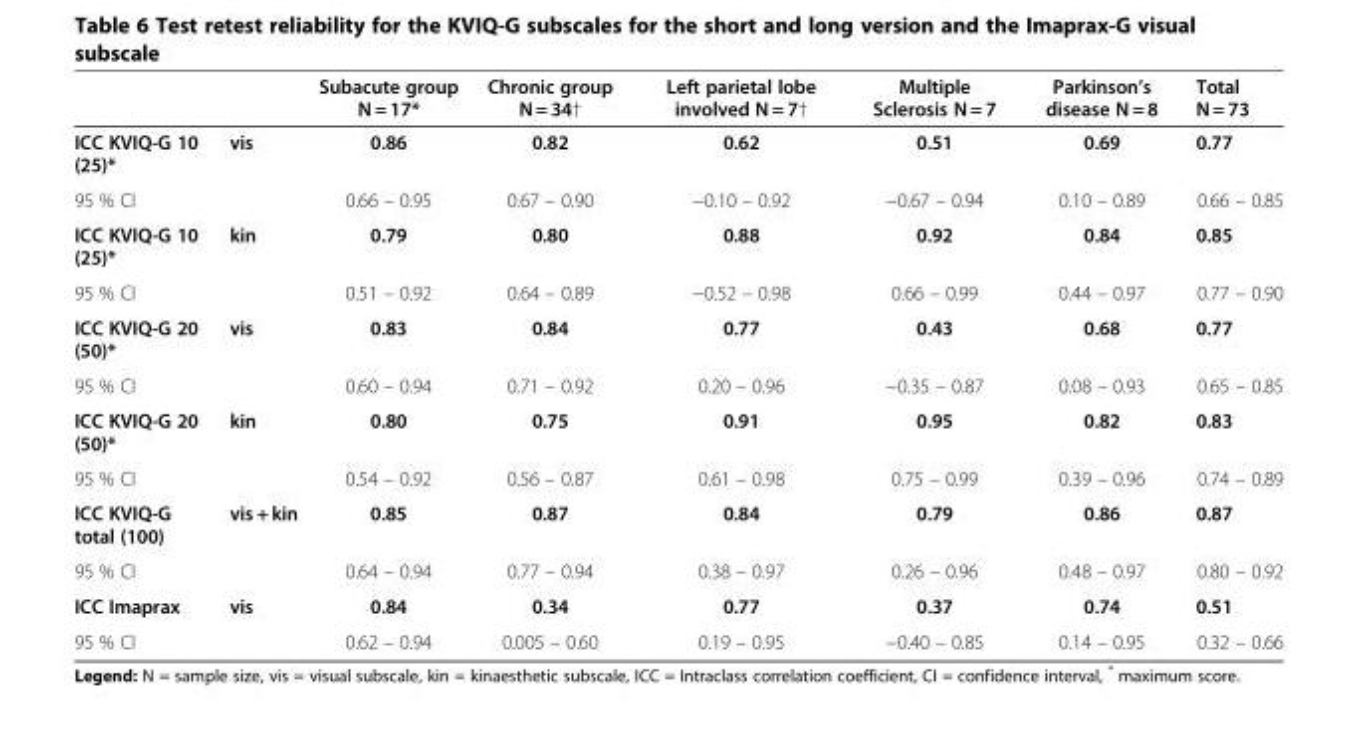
<table><thead><tr><td></td><td></td><td>Subacute group N = 17*</td><td>Chronic group N = 34†</td><td>Left parietal lobe involved N = 7†</td><td>Multiple Sclerosis N = 7</td><td>Parkinson’s disease N = 8</td><td>Total N = 73</td></tr></thead><tbody><tr><td>ICC KVIQ-G 10 (25)*</td><td rowspan="2">vis</td><td>0.86</td><td>0.82</td><td>0.62</td><td>0.51</td><td>0.69</td><td>0.77</td></tr><tr><td>95 % CI</td><td>0.66 – 0.95</td><td>0.67 – 0.90</td><td>−0.10 – 0.92</td><td>−0.67 – 0.94</td><td>0.10 – 0.89</td><td>0.66 – 0.85</td></tr><tr><td>ICC KVIQ-G 10 (25)*</td><td rowspan="2">kin</td><td>0.79</td><td>0.80</td><td>0.88</td><td>0.92</td><td>0.84</td><td>0.85</td></tr><tr><td>95 % CI</td><td>0.51 – 0.92</td><td>0.64 – 0.89</td><td>−0.52 – 0.98</td><td>0.66 – 0.99</td><td>0.44 – 0.97</td><td>0.77 – 0.90</td></tr><tr><td>ICC KVIQ-G 20 (50)*</td><td rowspan="2">vis</td><td>0.83</td><td>0.84</td><td>0.77</td><td>0.43</td><td>0.68</td><td>0.77</td></tr><tr><td>95 % CI</td><td>0.60 – 0.94</td><td>0.71 – 0.92</td><td>0.20 – 0.96</td><td>−0.35 – 0.87</td><td>0.08 – 0.93</td><td>0.65 – 0.85</td></tr><tr><td>ICC KVIQ-G 20 (50)*</td><td rowspan="2">kin</td><td>0.80</td><td>0.75</td><td>0.91</td><td>0.95</td><td>0.82</td><td>0.83</td></tr><tr><td>95 % CI</td><td>0.54 – 0.92</td><td>0.56 – 0.87</td><td>0.61 – 0.98</td><td>0.75 – 0.99</td><td>0.39 – 0.96</td><td>0.74 – 0.89</td></tr><tr><td>ICC KVIQ-G total (100)</td><td rowspan="2">vis + kin</td><td>0.85</td><td>0.87</td><td>0.84</td><td>0.79</td><td>0.86</td><td>0.87</td></tr><tr><td>95 % CI</td><td>0.64 – 0.94</td><td>0.77 – 0.94</td><td>0.38 – 0.97</td><td>0.26 – 0.96</td><td>0.48 – 0.97</td><td>0.80 – 0.92</td></tr><tr><td>ICC Imaprax</td><td>vis</td><td>0.84</td><td>0.34</td><td>0.77</td><td>0.37</td><td>0.74</td><td>0.51</td></tr><tr><td>95 % CI</td><td></td><td>0.62 – 0.94</td><td>0.005 – 0.60</td><td>0.19 – 0.95</td><td>−0.40 – 0.85</td><td>0.14 – 0.95</td><td>0.32 – 0.66</td></tr></tbody></table>